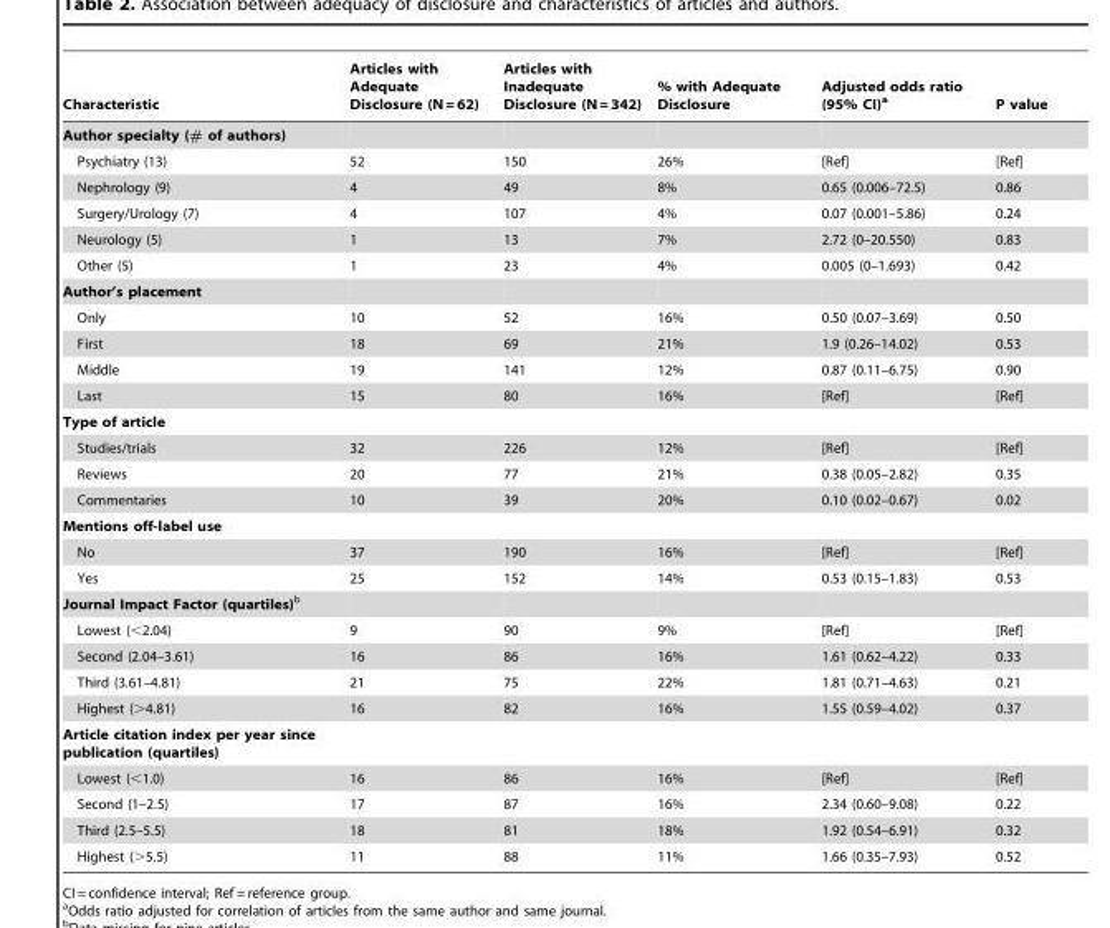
<table><thead><tr><td>Characteristic</td><td>Articles with Adequate Disclosure (N = 62)</td><td>Articles with Inadequate Disclosure (N = 342)</td><td>% with Adequate Disclosure</td><td>Adjusted odds ratio (95% CI)<sup>a</sup></td><td>P value</td></tr></thead><tbody><tr><td colspan="6">Author specialty (# of authors)</td></tr><tr><td>Psychiatry (13)</td><td>52</td><td>150</td><td>26%</td><td>[Ref]</td><td>[Ref]</td></tr><tr><td>Nephrology (9)</td><td>4</td><td>49</td><td>8%</td><td>0.65 (0.006–72.5)</td><td>0.86</td></tr><tr><td>Surgery/Urology (7)</td><td>4</td><td>107</td><td>4%</td><td>0.07 (0.001–5.86)</td><td>0.24</td></tr><tr><td>Neurology (5)</td><td>1</td><td>13</td><td>7%</td><td>2.72 (0–20.550)</td><td>0.83</td></tr><tr><td>Other (5)</td><td>1</td><td>23</td><td>4%</td><td>0.005 (0–1.693)</td><td>0.42</td></tr><tr><td colspan="6">Author’s placement</td></tr><tr><td>Only</td><td>10</td><td>52</td><td>16%</td><td>0.50 (0.07–3.69)</td><td>0.50</td></tr><tr><td>First</td><td>18</td><td>69</td><td>21%</td><td>1.9 (0.26–14.02)</td><td>0.53</td></tr><tr><td>Middle</td><td>19</td><td>141</td><td>12%</td><td>0.87 (0.11–6.75)</td><td>0.90</td></tr><tr><td>Last</td><td>15</td><td>80</td><td>16%</td><td>[Ref]</td><td>[Ref]</td></tr><tr><td colspan="6">Type of article</td></tr><tr><td>Studies/trials</td><td>32</td><td>226</td><td>12%</td><td>[Ref]</td><td>[Ref]</td></tr><tr><td>Reviews</td><td>20</td><td>77</td><td>21%</td><td>0.38 (0.05–2.82)</td><td>0.35</td></tr><tr><td>Commentaries</td><td>10</td><td>39</td><td>20%</td><td>0.10 (0.02–0.67)</td><td>0.02</td></tr><tr><td colspan="6">Mentions off-label use</td></tr><tr><td>No</td><td>37</td><td>190</td><td>16%</td><td>[Ref]</td><td>[Ref]</td></tr><tr><td>Yes</td><td>25</td><td>152</td><td>14%</td><td>0.53 (0.15–1.83)</td><td>0.53</td></tr><tr><td colspan="6">Journal Impact Factor (quartiles)b</td></tr><tr><td>Lowest (&lt;2.04)</td><td>9</td><td>90</td><td>9%</td><td>[Ref]</td><td>[Ref]</td></tr><tr><td>Second (2.04–3.61)</td><td>16</td><td>86</td><td>16%</td><td>1.61 (0.62–4.22)</td><td>0.33</td></tr><tr><td>Third (3.61–4.81)</td><td>21</td><td>75</td><td>22%</td><td>1.81 (0.71–4.63)</td><td>0.21</td></tr><tr><td>Highest (&gt;4.81)</td><td>16</td><td>82</td><td>16%</td><td>1.55 (0.59–4.02)</td><td>0.37</td></tr><tr><td colspan="6">Article citation index per year since publication (quartiles)</td></tr><tr><td>Lowest (&lt;1.0)</td><td>16</td><td>86</td><td>16%</td><td>[Ref]</td><td>[Ref]</td></tr><tr><td>Second (1–2.5)</td><td>17</td><td>87</td><td>16%</td><td>2.34 (0.60–9.08)</td><td>0.22</td></tr><tr><td>Third (2.5–5.5)</td><td>18</td><td>81</td><td>18%</td><td>1.92 (0.54–6.91)</td><td>0.32</td></tr><tr><td>Highest (&gt;5.5)</td><td>11</td><td>88</td><td>11%</td><td>1.66 (0.35–7.93)</td><td>0.52</td></tr></tbody></table>